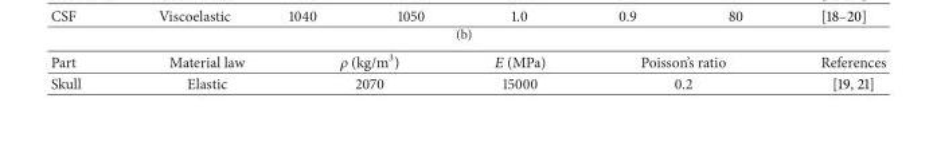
<table><thead><tr><td>Part</td><td>Material law</td><td>(kg/m3)</td><td>(MPa)</td><td>Poisson’s ratio</td><td>References</td></tr></thead><tbody><tr><td>Skull</td><td>Elastic</td><td>2070</td><td>15000</td><td>0.2</td><td>[19, 21]</td></tr></tbody></table>